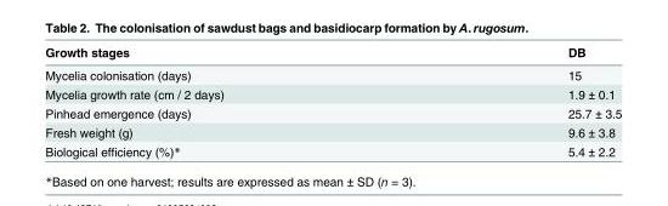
<table><thead><tr><td>Growth stages</td><td>DB</td></tr></thead><tbody><tr><td>Mycelia colonisation (days)</td><td>15</td></tr><tr><td>Mycelia growth rate (cm / 2 days)</td><td>1.9 ± 0.1</td></tr><tr><td>Pinhead emergence (days)</td><td>25.7 ± 3.5</td></tr><tr><td>Fresh weight (g)</td><td>9.6 ± 3.8</td></tr><tr><td>Biological efficiency (%)*</td><td>5.4 ± 2.2</td></tr></tbody></table>